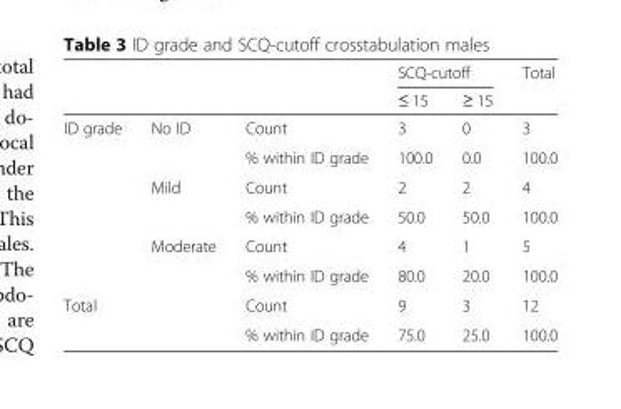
<table><thead><tr><td rowspan="2"></td><td rowspan="2"></td><td rowspan="2"></td><td colspan="2">SCQ-cutoff</td><td rowspan="2">Total</td></tr><tr><td>≤ 15</td><td>≥ 15</td></tr></thead><tbody><tr><td rowspan="6">ID grade</td><td rowspan="2">No ID</td><td>Count</td><td>3</td><td>0</td><td>3</td></tr><tr><td>% within ID grade</td><td>100.0</td><td>0.0</td><td>100.0</td></tr><tr><td rowspan="2">Mild</td><td>Count</td><td>2</td><td>2</td><td>4</td></tr><tr><td>% within ID grade</td><td>50.0</td><td>50.0</td><td>100.0</td></tr><tr><td rowspan="2">Moderate</td><td>Count</td><td>4</td><td>1</td><td>5</td></tr><tr><td>% within ID grade</td><td>80.0</td><td>20.0</td><td>100.0</td></tr><tr><td rowspan="2" colspan="2">Total</td><td>Count</td><td>9</td><td>3</td><td>12</td></tr><tr><td>% within ID grade</td><td>75.0</td><td>25.0</td><td>100.0</td></tr></tbody></table>